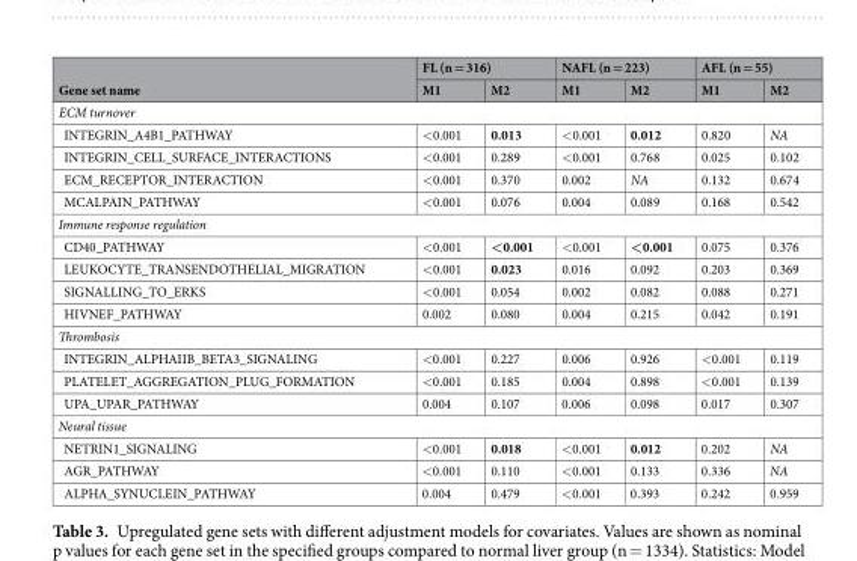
<table><thead><tr><td rowspan="2">Gene set name</td><td colspan="2">FL (n = 316)</td><td colspan="2">NAFL (n = 223)</td><td colspan="2">AFL (n = 55)</td></tr><tr><td>M1</td><td>M2</td><td>M1</td><td>M2</td><td>M1</td><td>M2</td></tr></thead><tbody><tr><td colspan="7">ECM turnover</td></tr><tr><td>INTEGRIN_A4B1_PATHWAY</td><td>&lt;0.001</td><td>0.013</td><td>&lt;0.001</td><td>0.012</td><td>0.820</td><td>NA</td></tr><tr><td>INTEGRIN_CELL_SURFACE_INTERACTIONS</td><td>&lt;0.001</td><td>0.289</td><td>&lt;0.001</td><td>0.768</td><td>0.025</td><td>0.102</td></tr><tr><td>ECM_RECEPTOR_INTERACTION</td><td>&lt;0.001</td><td>0.370</td><td>0.002</td><td>NA</td><td>0.132</td><td>0.674</td></tr><tr><td>MCALPAIN_PATHWAY</td><td>&lt;0.001</td><td>0.076</td><td>0.004</td><td>0.089</td><td>0.168</td><td>0.542</td></tr><tr><td colspan="7">Immune response regulation</td></tr><tr><td>CD40_PATHWAY</td><td>&lt;0.001</td><td>&lt;0.001</td><td>&lt;0.001</td><td>&lt;0.001</td><td>0.075</td><td>0.376</td></tr><tr><td>LEUKOCYTE_TRANSENDOTHELIAL_MIGRATION</td><td>&lt;0.001</td><td>0.023</td><td>0.016</td><td>0.092</td><td>0.203</td><td>0.369</td></tr><tr><td>SIGNALLING_TO_ERKS</td><td>&lt;0.001</td><td>0.054</td><td>0.002</td><td>0.082</td><td>0.088</td><td>0.271</td></tr><tr><td>HIVNEF_PATHWAY</td><td>0.002</td><td>0.080</td><td>0.004</td><td>0.215</td><td>0.042</td><td>0.191</td></tr><tr><td colspan="7">Thrombosis</td></tr><tr><td>INTEGRIN_ALPHAIIB_BETA3_SIGNALING</td><td>&lt;0.001</td><td>0.227</td><td>0.006</td><td>0.926</td><td>&lt;0.001</td><td>0.119</td></tr><tr><td>PLATELET_AGGREGATION_PLUG_FORMATION</td><td>&lt;0.001</td><td>0.185</td><td>0.004</td><td>0.898</td><td>&lt;0.001</td><td>0.139</td></tr><tr><td>UPA_UPAR_PATHWAY</td><td>0.004</td><td>0.107</td><td>0.006</td><td>0.098</td><td>0.017</td><td>0.307</td></tr><tr><td colspan="7">Neural tissue</td></tr><tr><td>NETRIN1_SIGNALING</td><td>&lt;0.001</td><td>0.018</td><td>&lt;0.001</td><td>0.012</td><td>0.202</td><td>NA</td></tr><tr><td>AGR_PATHWAY</td><td>&lt;0.001</td><td>0.110</td><td>&lt;0.001</td><td>0.133</td><td>0.336</td><td>NA</td></tr><tr><td>ALPHA_SYNUCLEIN_PATHWAY</td><td>0.004</td><td>0.479</td><td>&lt;0.001</td><td>0.393</td><td>0.242</td><td>0.959</td></tr></tbody></table>